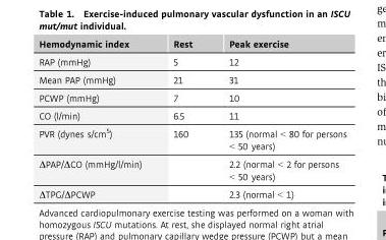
<table><thead><tr><td>Hemodynamic index</td><td>Rest</td><td>Peak exercise</td></tr></thead><tbody><tr><td>RAP (mmHg)</td><td>5</td><td>12</td></tr><tr><td>Mean PAP (mmHg)</td><td>21</td><td>31</td></tr><tr><td>PCWP (mmHg)</td><td>7</td><td>10</td></tr><tr><td>CO (l/min)</td><td>6.5</td><td>11</td></tr><tr><td>PVR (dynes s/cm<sup>5</sup>)</td><td>160</td><td>135 (normal &lt; 80 for persons &lt; 50 years)</td></tr><tr><td>ΔPAP/ΔCO (mmHg/l/min)</td><td></td><td>2.2 (normal &lt; 2 for persons &lt; 50 years)</td></tr><tr><td>ΔTPG/ΔPCWP</td><td></td><td>2.3 (normal &lt; 1)</td></tr></tbody></table>